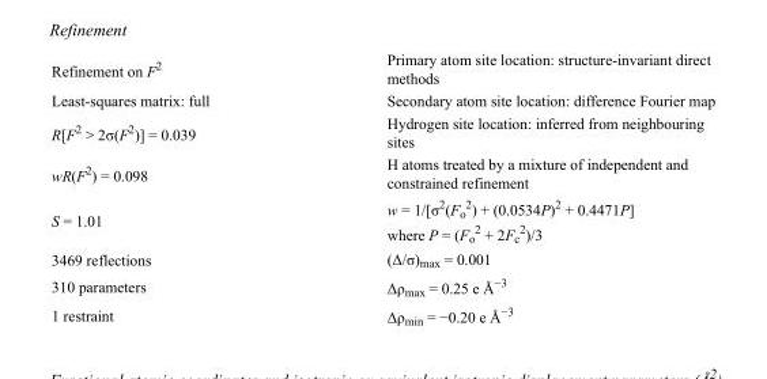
<table><tbody><tr><td>Refinement on F<sup>2</sup></td><td>Primary atom site location: structure-invariant direct methods</td></tr><tr><td>Least-squares matrix: full</td><td>Secondary atom site location: difference Fourier map</td></tr><tr><td>R[F<sup>2</sup> &gt; 2σ(F<sup>2</sup>)] = 0.039</td><td>Hydrogen site location: inferred from neighbouring sites</td></tr><tr><td>wR(F<sup>2</sup>) = 0.098</td><td>H atoms treated by a mixture of independent and constrained refinement</td></tr><tr><td>S = 1.01</td><td>w = 1/[σ<sup>2</sup>(F<sub>o</sub> <sup>2</sup>) + (0.0534P)<sup>2</sup> + 0.4471P] where P = (F<sub>o</sub> <sup>2</sup> + 2F<sub>c</sub> <sup>2</sup>)/3</td></tr><tr><td>3469 reflections</td><td>(Δ/σ)<sub>max</sub> = 0.001</td></tr><tr><td>310 parameters</td><td>Δρ<sub>max</sub> = 0.25 e Å<sup>−3</sup></td></tr><tr><td>1 restraint</td><td>Δρ<sub>min</sub> = −0.20 e Å<sup>−3</sup></td></tr></tbody></table>